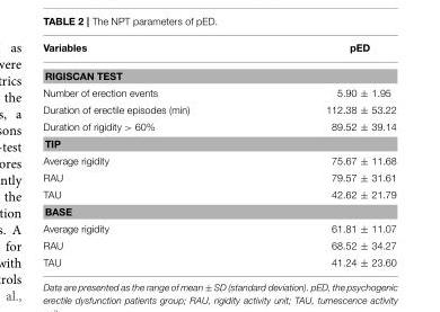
<table><thead><tr><td>Variables</td><td>pED</td></tr></thead><tbody><tr><td colspan="2">RIGISCAN TEST</td></tr><tr><td>Number of erection events</td><td>5.90 ± 1.95</td></tr><tr><td>Duration of erectile episodes (min)</td><td>112.38 ± 53.22</td></tr><tr><td>Duration of rigidity &gt; 60%</td><td>89.52 ± 39.14</td></tr><tr><td colspan="2">TIP</td></tr><tr><td>Average rigidity</td><td>75.67 ± 11.68</td></tr><tr><td>RAU</td><td>79.57 ± 31.61</td></tr><tr><td>TAU</td><td>42.62 ± 21.79</td></tr><tr><td colspan="2">BASE</td></tr><tr><td>Average rigidity</td><td>61.81 ± 11.07</td></tr><tr><td>RAU</td><td>68.52 ± 34.27</td></tr><tr><td>TAU</td><td>41.24 ± 23.60</td></tr></tbody></table>